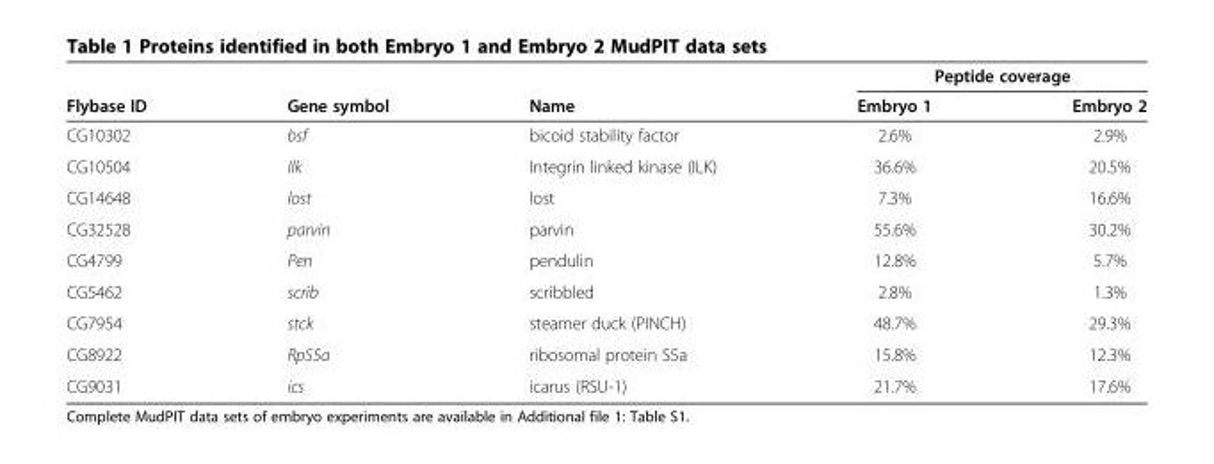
<table><thead><tr><td rowspan="2">Flybase ID</td><td rowspan="2">Gene symbol</td><td rowspan="2">Name</td><td colspan="2">Peptide coverage</td></tr><tr><td>Embryo 1</td><td>Embryo 2</td></tr></thead><tbody><tr><td>CG10302</td><td>bsf</td><td>bicoid stability factor</td><td>2.6%</td><td>2.9%</td></tr><tr><td>CG10504</td><td>Ilk</td><td>Integrin linked kinase (ILK)</td><td>36.6%</td><td>20.5%</td></tr><tr><td>CG14648</td><td>lost</td><td>lost</td><td>7.3%</td><td>16.6%</td></tr><tr><td>CG32528</td><td>parvin</td><td>parvin</td><td>55.6%</td><td>30.2%</td></tr><tr><td>CG4799</td><td>Pen</td><td>pendulin</td><td>12.8%</td><td>5.7%</td></tr><tr><td>CG5462</td><td>scrib</td><td>scribbled</td><td>2.8%</td><td>1.3%</td></tr><tr><td>CG7954</td><td>stck</td><td>steamer duck (PINCH)</td><td>48.7%</td><td>29.3%</td></tr><tr><td>CG8922</td><td>RpS5a</td><td>ribosomal protein S5a</td><td>15.8%</td><td>12.3%</td></tr><tr><td>CG9031</td><td>ics</td><td>icarus (RSU-1)</td><td>21.7%</td><td>17.6%</td></tr></tbody></table>